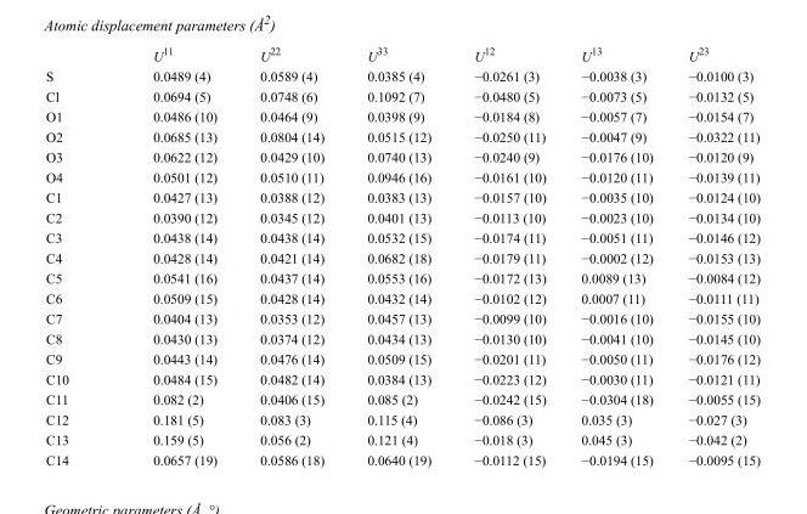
<table><thead><tr><td></td><td>U<sup>11</sup></td><td>U<sup>22</sup></td><td>U<sup>33</sup></td><td>U<sup>12</sup></td><td>U<sup>13</sup></td><td>U<sup>23</sup></td></tr></thead><tbody><tr><td>S</td><td>0.0489 (4)</td><td>0.0589 (4)</td><td>0.0385 (4)</td><td>−0.0261 (3)</td><td>−0.0038 (3)</td><td>−0.0100 (3)</td></tr><tr><td>Cl</td><td>0.0694 (5)</td><td>0.0748 (6)</td><td>0.1092 (7)</td><td>−0.0480 (5)</td><td>−0.0073 (5)</td><td>−0.0132 (5)</td></tr><tr><td>O1</td><td>0.0486 (10)</td><td>0.0464 (9)</td><td>0.0398 (9)</td><td>−0.0184 (8)</td><td>−0.0057 (7)</td><td>−0.0154 (7)</td></tr><tr><td>O2</td><td>0.0685 (13)</td><td>0.0804 (14)</td><td>0.0515 (12)</td><td>−0.0250 (11)</td><td>−0.0047 (9)</td><td>−0.0322 (11)</td></tr><tr><td>O3</td><td>0.0622 (12)</td><td>0.0429 (10)</td><td>0.0740 (13)</td><td>−0.0240 (9)</td><td>−0.0176 (10)</td><td>−0.0120 (9)</td></tr><tr><td>O4</td><td>0.0501 (12)</td><td>0.0510 (11)</td><td>0.0946 (16)</td><td>−0.0161 (10)</td><td>−0.0120 (11)</td><td>−0.0139 (11)</td></tr><tr><td>C1</td><td>0.0427 (13)</td><td>0.0388 (12)</td><td>0.0383 (13)</td><td>−0.0157 (10)</td><td>−0.0035 (10)</td><td>−0.0124 (10)</td></tr><tr><td>C2</td><td>0.0390 (12)</td><td>0.0345 (12)</td><td>0.0401 (13)</td><td>−0.0113 (10)</td><td>−0.0023 (10)</td><td>−0.0134 (10)</td></tr><tr><td>C3</td><td>0.0438 (14)</td><td>0.0438 (14)</td><td>0.0532 (15)</td><td>−0.0174 (11)</td><td>−0.0051 (11)</td><td>−0.0146 (12)</td></tr><tr><td>C4</td><td>0.0428 (14)</td><td>0.0421 (14)</td><td>0.0682 (18)</td><td>−0.0179 (11)</td><td>−0.0002 (12)</td><td>−0.0153 (13)</td></tr><tr><td>C5</td><td>0.0541 (16)</td><td>0.0437 (14)</td><td>0.0553 (16)</td><td>−0.0172 (13)</td><td>0.0089 (13)</td><td>−0.0084 (12)</td></tr><tr><td>C6</td><td>0.0509 (15)</td><td>0.0428 (14)</td><td>0.0432 (14)</td><td>−0.0102 (12)</td><td>0.0007 (11)</td><td>−0.0111 (11)</td></tr><tr><td>C7</td><td>0.0404 (13)</td><td>0.0353 (12)</td><td>0.0457 (13)</td><td>−0.0099 (10)</td><td>−0.0016 (10)</td><td>−0.0155 (10)</td></tr><tr><td>C8</td><td>0.0430 (13)</td><td>0.0374 (12)</td><td>0.0434 (13)</td><td>−0.0130 (10)</td><td>−0.0041 (10)</td><td>−0.0145 (10)</td></tr><tr><td>C9</td><td>0.0443 (14)</td><td>0.0476 (14)</td><td>0.0509 (15)</td><td>−0.0201 (11)</td><td>−0.0050 (11)</td><td>−0.0176 (12)</td></tr><tr><td>C10</td><td>0.0484 (15)</td><td>0.0482 (14)</td><td>0.0384 (13)</td><td>−0.0223 (12)</td><td>−0.0030 (11)</td><td>−0.0121 (11)</td></tr><tr><td>C11</td><td>0.082 (2)</td><td>0.0406 (15)</td><td>0.085 (2)</td><td>−0.0242 (15)</td><td>−0.0304 (18)</td><td>−0.0055 (15)</td></tr><tr><td>C12</td><td>0.181 (5)</td><td>0.083 (3)</td><td>0.115 (4)</td><td>−0.086 (3)</td><td>0.035 (3)</td><td>−0.027 (3)</td></tr><tr><td>C13</td><td>0.159 (5)</td><td>0.056 (2)</td><td>0.121 (4)</td><td>−0.018 (3)</td><td>0.045 (3)</td><td>−0.042 (2)</td></tr><tr><td>C14</td><td>0.0657 (19)</td><td>0.0586 (18)</td><td>0.0640 (19)</td><td>−0.0112 (15)</td><td>−0.0194 (15)</td><td>−0.0095 (15)</td></tr></tbody></table>